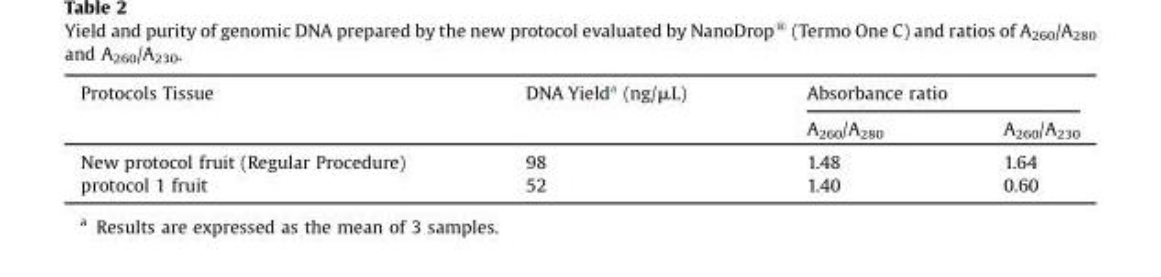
<table><thead><tr><td rowspan="2">Protocols Tissue</td><td rowspan="2">DNA Yield<sup>a</sup> (ng/μL)</td><td colspan="2">Absorbance ratio</td></tr><tr><td>A<sub>260</sub>/A<sub>280</sub></td><td>A<sub>260</sub>/A<sub>230</sub></td></tr></thead><tbody><tr><td>New protocol fruit (Regular Procedure)</td><td>98</td><td>1.48</td><td>1.64</td></tr><tr><td>protocol 1 fruit</td><td>52</td><td>1.40</td><td>0.60</td></tr></tbody></table>